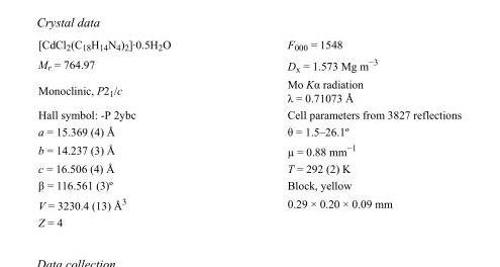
<table><tbody><tr><td>[CdCl<sub>2</sub>(C<sub>18</sub>H<sub>14</sub>N<sub>4</sub>)<sub>2</sub>]·0.5H<sub>2</sub>O</td><td>F000 = 1548</td></tr><tr><td>M<sub>r</sub> = 764.97</td><td>D<sub>x</sub> = 1.573 Mg m<sup>−3</sup></td></tr><tr><td>Monoclinic, P2<sub>1</sub>/c</td><td>Mo Kα radiation λ = 0.71073 Å</td></tr><tr><td>Hall symbol: -P 2ybc</td><td>Cell parameters from 3827 reflections</td></tr><tr><td>a = 15.369 (4) Å</td><td>θ = 1.5–26.1º</td></tr><tr><td>b = 14.237 (3) Å</td><td>µ = 0.88 mm<sup>−1</sup></td></tr><tr><td>c = 16.506 (4) Å</td><td>T = 292 (2) K</td></tr><tr><td>β = 116.561 (3)º</td><td>Block, yellow</td></tr><tr><td>V = 3230.4 (13) Å<sup>3</sup></td><td>0.29 × 0.20 × 0.09 mm</td></tr><tr><td>Z = 4</td><td></td></tr></tbody></table>